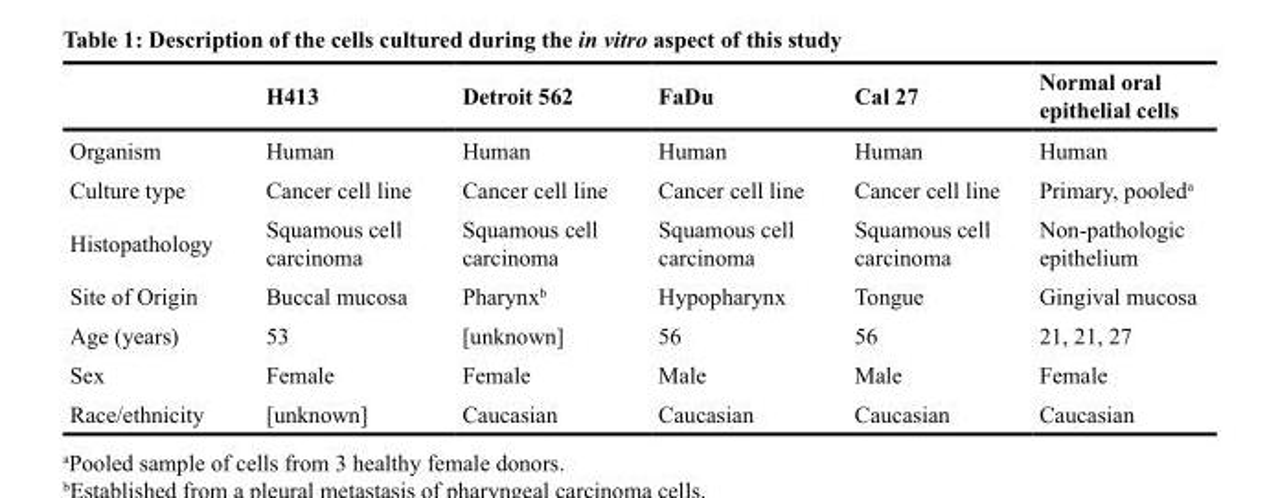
<table><thead><tr><td></td><td>H413</td><td>Detroit 562</td><td>FaDu</td><td>Cal 27</td><td>Normal oral epithelial cells</td></tr></thead><tbody><tr><td>Organism</td><td>Human</td><td>Human</td><td>Human</td><td>Human</td><td>Human</td></tr><tr><td>Culture type</td><td>Cancer cell line</td><td>Cancer cell line</td><td>Cancer cell line</td><td>Cancer cell line</td><td>Primary, pooled<sup>a</sup></td></tr><tr><td>Histopathology</td><td>Squamous cell carcinoma</td><td>Squamous cell carcinoma</td><td>Squamous cell carcinoma</td><td>Squamous cell carcinoma</td><td>Non-pathologic epithelium</td></tr><tr><td>Site of Origin</td><td>Buccal mucosa</td><td>Pharynx<sup>b</sup></td><td>Hypopharynx</td><td>Tongue</td><td>Gingival mucosa</td></tr><tr><td>Age (years)</td><td>53</td><td>[unknown]</td><td>56</td><td>56</td><td>21, 21, 27</td></tr><tr><td>Sex</td><td>Female</td><td>Female</td><td>Male</td><td>Male</td><td>Female</td></tr><tr><td>Race/ethnicity</td><td>[unknown]</td><td>Caucasian</td><td>Caucasian</td><td>Caucasian</td><td>Caucasian</td></tr></tbody></table>